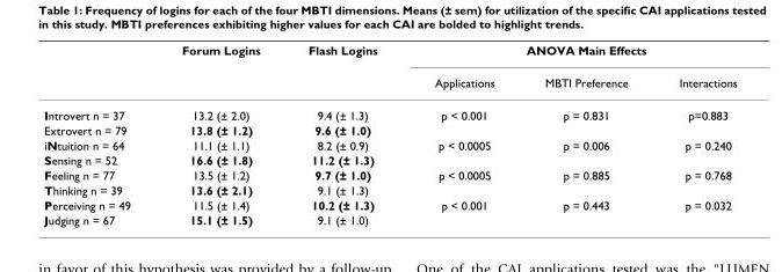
<table><thead><tr><td rowspan="2"></td><td rowspan="2">Forum Logins</td><td rowspan="2">Flash Logins</td><td colspan="3">ANOVA Main Effects</td></tr><tr><td>Applications</td><td>MBTI Preference</td><td>Interactions</td></tr></thead><tbody><tr><td>Introvert n = 37</td><td>13.2 (± 2.0)</td><td>9.4 (± 1.3)</td><td>p &lt; 0.001</td><td>p = 0.831</td><td>p=0.883</td></tr><tr><td>Extrovert n = 79</td><td>13.8 (± 1.2)</td><td>9.6 (± 1.0)</td><td></td><td></td><td></td></tr><tr><td>iNtuition n = 64</td><td>11.1 (± 1.1)</td><td>8.2 (± 0.9)</td><td>p &lt; 0.0005</td><td>p = 0.006</td><td>p = 0.240</td></tr><tr><td>Sensing n = 52</td><td>16.6 (± 1.8)</td><td>11.2 (± 1.3)</td><td></td><td></td><td></td></tr><tr><td>Feeling n = 77</td><td>13.5 (± 1.2)</td><td>9.7 (± 1.0)</td><td>p &lt; 0.0005</td><td>p = 0.885</td><td>p = 0.768</td></tr><tr><td>Thinking n = 39</td><td>13.6 (± 2.1)</td><td>9.1 (± 1.3)</td><td></td><td></td><td></td></tr><tr><td>Perceiving n = 49</td><td>11.5 (± 1.4)</td><td>10.2 (± 1.3)</td><td>p &lt; 0.001</td><td>p = 0.443</td><td>p = 0.032</td></tr><tr><td>Judging n = 67</td><td>15.1 (± 1.5)</td><td>9.1 (± 1.0)</td><td></td><td></td><td></td></tr></tbody></table>